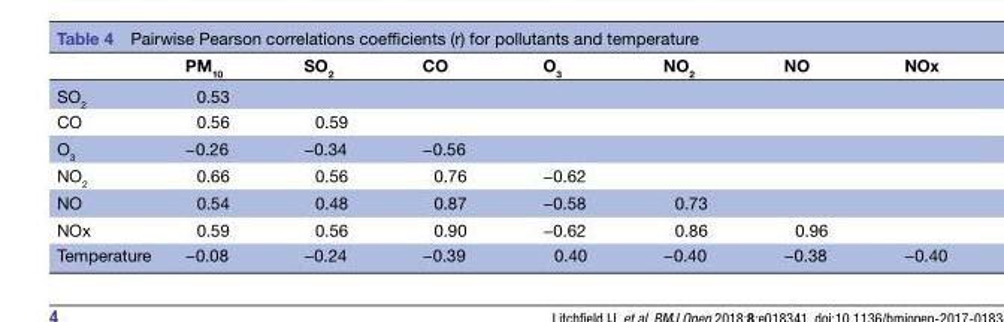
<table><thead><tr><td></td><td>PM<sub>10</sub></td><td>SO<sub>2</sub></td><td>CO</td><td>O<sub>3</sub></td><td>NO<sub>2</sub></td><td>NO</td><td>NOx</td></tr></thead><tbody><tr><td>SO<sub>2</sub></td><td>0.53</td><td></td><td></td><td></td><td></td><td></td><td></td></tr><tr><td>CO</td><td>0.56</td><td>0.59</td><td></td><td></td><td></td><td></td><td></td></tr><tr><td>O<sub>3</sub></td><td>−0.26</td><td>−0.34</td><td>−0.56</td><td></td><td></td><td></td><td></td></tr><tr><td>NO<sub>2</sub></td><td>0.66</td><td>0.56</td><td>0.76</td><td>−0.62</td><td></td><td></td><td></td></tr><tr><td>NO</td><td>0.54</td><td>0.48</td><td>0.87</td><td>−0.58</td><td>0.73</td><td></td><td></td></tr><tr><td>NOx</td><td>0.59</td><td>0.56</td><td>0.90</td><td>−0.62</td><td>0.86</td><td>0.96</td><td></td></tr><tr><td>Temperature</td><td>−0.08</td><td>−0.24</td><td>−0.39</td><td>0.40</td><td>−0.40</td><td>−0.38</td><td>−0.40</td></tr></tbody></table>